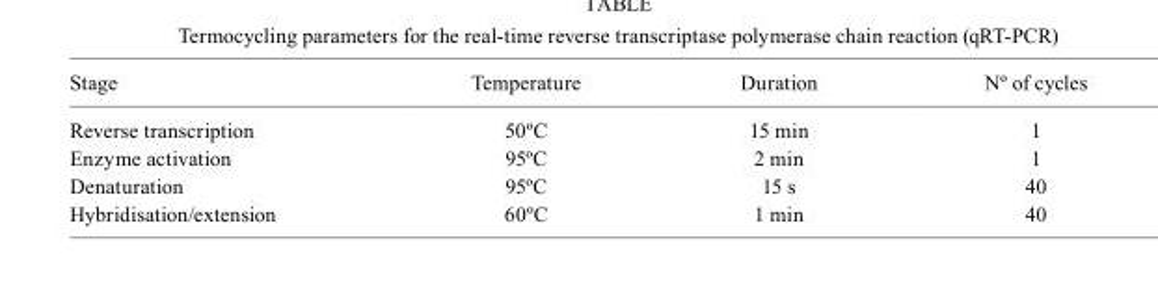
<table><thead><tr><td>Stage</td><td>Temperature</td><td>Duration</td><td>Nº of cycles</td></tr></thead><tbody><tr><td>Reverse transcription</td><td>50ºC</td><td>15 min</td><td>1</td></tr><tr><td>Enzyme activation</td><td>95ºC</td><td>2 min</td><td>1</td></tr><tr><td>Denaturation</td><td>95ºC</td><td>15 s</td><td>40</td></tr><tr><td>Hybridisation/extension</td><td>60ºC</td><td>1 min</td><td>40</td></tr></tbody></table>